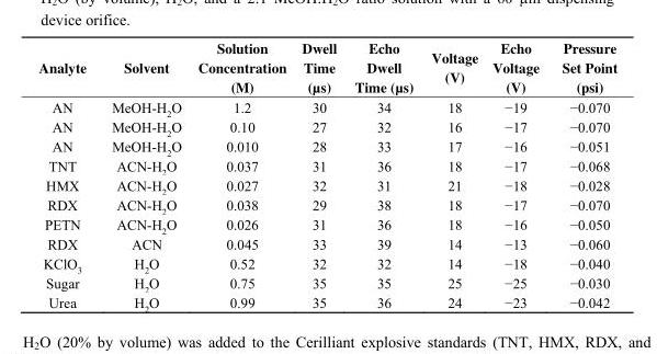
<table><thead><tr><td>Analyte</td><td>Solvent</td><td>Solution Concentration (M)</td><td>Dwell Time (µs)</td><td>Echo Dwell Time (µs)</td><td>Voltage (V)</td><td>Echo Voltage (V)</td><td>Pressure Set Point (psi)</td></tr></thead><tbody><tr><td>AN</td><td>MeOH-H<sub>2</sub>O</td><td>1.2</td><td>30</td><td>34</td><td>18</td><td>−19</td><td>−0.070</td></tr><tr><td>AN</td><td>MeOH-H<sub>2</sub>O</td><td>0.10</td><td>27</td><td>32</td><td>16</td><td>−17</td><td>−0.070</td></tr><tr><td>AN</td><td>MeOH-H<sub>2</sub>O</td><td>0.010</td><td>28</td><td>33</td><td>17</td><td>−16</td><td>−0.051</td></tr><tr><td>TNT</td><td>ACN-H<sub>2</sub>O</td><td>0.037</td><td>31</td><td>36</td><td>18</td><td>−17</td><td>−0.068</td></tr><tr><td>HMX</td><td>ACN-H<sub>2</sub>O</td><td>0.027</td><td>32</td><td>31</td><td>21</td><td>−18</td><td>−0.028</td></tr><tr><td>RDX</td><td>ACN-H<sub>2</sub>O</td><td>0.038</td><td>29</td><td>38</td><td>18</td><td>−17</td><td>−0.070</td></tr><tr><td>PETN</td><td>ACN-H<sub>2</sub>O</td><td>0.026</td><td>31</td><td>36</td><td>18</td><td>−16</td><td>−0.050</td></tr><tr><td>RDX</td><td>ACN</td><td>0.045</td><td>33</td><td>39</td><td>14</td><td>−13</td><td>−0.060</td></tr><tr><td>KClO<sub>3</sub></td><td>H<sub>2</sub>O</td><td>0.52</td><td>32</td><td>32</td><td>14</td><td>−18</td><td>−0.040</td></tr><tr><td>Sugar</td><td>H<sub>2</sub>O</td><td>0.75</td><td>35</td><td>35</td><td>25</td><td>−25</td><td>−0.030</td></tr><tr><td>Urea</td><td>H<sub>2</sub>O</td><td>0.99</td><td>35</td><td>36</td><td>24</td><td>−23</td><td>−0.042</td></tr></tbody></table>